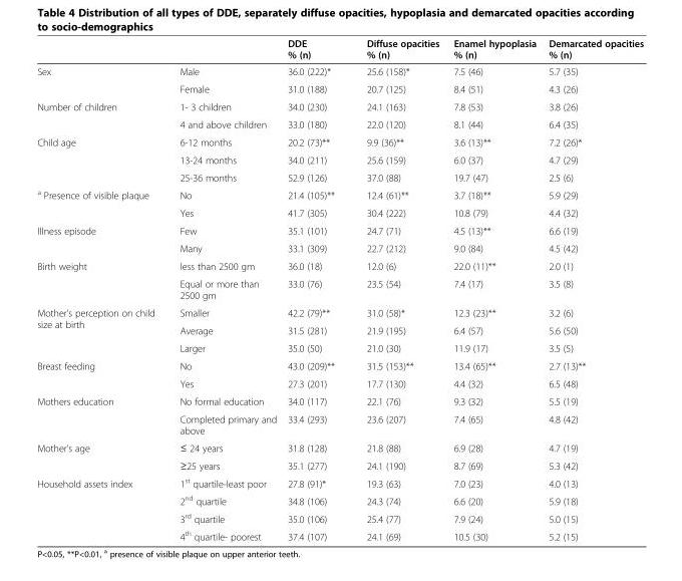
<table><thead><tr><td></td><td></td><td>DDE % (n)</td><td>Diffuse opacities % (n)</td><td>Enamel hypoplasia % (n)</td><td>Demarcated opacities % (n)</td></tr></thead><tbody><tr><td rowspan="2">Sex</td><td>Male</td><td>36.0 (222)*</td><td>25.6 (158)*</td><td>7.5 (46)</td><td>5.7 (35)</td></tr><tr><td>Female</td><td>31.0 (188)</td><td>20.7 (125)</td><td>8.4 (51)</td><td>4.3 (26)</td></tr><tr><td rowspan="2">Number of children</td><td>1- 3 children</td><td>34.0 (230)</td><td>24.1 (163)</td><td>7.8 (53)</td><td>3.8 (26)</td></tr><tr><td>4 and above children</td><td>33.0 (180)</td><td>22.0 (120)</td><td>8.1 (44)</td><td>6.4 (35)</td></tr><tr><td rowspan="3">Child age</td><td>6-12 months</td><td>20.2 (73)**</td><td>9.9 (36)**</td><td>3.6 (13)**</td><td>7.2 (26)*</td></tr><tr><td>13-24 months</td><td>34.0 (211)</td><td>25.6 (159)</td><td>6.0 (37)</td><td>4.7 (29)</td></tr><tr><td>25-36 months</td><td>52.9 (126)</td><td>37.0 (88)</td><td>19.7 (47)</td><td>2.5 (6)</td></tr><tr><td rowspan="2"><sup>a</sup> Presence of visible plaque</td><td>No</td><td>21.4 (105)**</td><td>12.4 (61)**</td><td>3.7 (18)**</td><td>5.9 (29)</td></tr><tr><td>Yes</td><td>41.7 (305)</td><td>30.4 (222)</td><td>10.8 (79)</td><td>4.4 (32)</td></tr><tr><td rowspan="2">Illness episode</td><td>Few</td><td>35.1 (101)</td><td>24.7 (71)</td><td>4.5 (13)**</td><td>6.6 (19)</td></tr><tr><td>Many</td><td>33.1 (309)</td><td>22.7 (212)</td><td>9.0 (84)</td><td>4.5 (42)</td></tr><tr><td rowspan="2">Birth weight</td><td>less than 2500 gm</td><td>36.0 (18)</td><td>12.0 (6)</td><td>22.0 (11)**</td><td>2.0 (1)</td></tr><tr><td>Equal or more than 2500 gm</td><td>33.0 (76)</td><td>23.5 (54)</td><td>7.4 (17)</td><td>3.5 (8)</td></tr><tr><td rowspan="3">Mother’s perception on child size at birth</td><td>Smaller</td><td>42.2 (79)**</td><td>31.0 (58)*</td><td>12.3 (23)**</td><td>3.2 (6)</td></tr><tr><td>Average</td><td>31.5 (281)</td><td>21.9 (195)</td><td>6.4 (57)</td><td>5.6 (50)</td></tr><tr><td>Larger</td><td>35.0 (50)</td><td>21.0 (30)</td><td>11.9 (17)</td><td>3.5 (5)</td></tr><tr><td rowspan="2">Breast feeding</td><td>No</td><td>43.0 (209)**</td><td>31.5 (153)**</td><td>13.4 (65)**</td><td>2.7 (13)**</td></tr><tr><td>Yes</td><td>27.3 (201)</td><td>17.7 (130)</td><td>4.4 (32)</td><td>6.5 (48)</td></tr><tr><td rowspan="2">Mothers education</td><td>No formal education</td><td>34.0 (117)</td><td>22.1 (76)</td><td>9.3 (32)</td><td>5.5 (19)</td></tr><tr><td>Completed primary and above</td><td>33.4 (293)</td><td>23.6 (207)</td><td>7.4 (65)</td><td>4.8 (42)</td></tr><tr><td rowspan="2">Mother’s age</td><td>≤ 24 years</td><td>31.8 (128)</td><td>21.8 (88)</td><td>6.9 (28)</td><td>4.7 (19)</td></tr><tr><td>≥25 years</td><td>35.1 (277)</td><td>24.1 (190)</td><td>8.7 (69)</td><td>5.3 (42)</td></tr><tr><td rowspan="4">Household assets index</td><td>1<sup>st</sup> quartile-least poor</td><td>27.8 (91)*</td><td>19.3 (63)</td><td>7.0 (23)</td><td>4.0 (13)</td></tr><tr><td>2<sup>nd</sup> quartile</td><td>34.8 (106)</td><td>24.3 (74)</td><td>6.6 (20)</td><td>5.9 (18)</td></tr><tr><td>3<sup>rd</sup> quartile</td><td>35.0 (106)</td><td>25.4 (77)</td><td>7.9 (24)</td><td>5.0 (15)</td></tr><tr><td>4<sup>th</sup> quartile- poorest</td><td>37.4 (107)</td><td>24.1 (69)</td><td>10.5 (30)</td><td>5.2 (15)</td></tr></tbody></table>